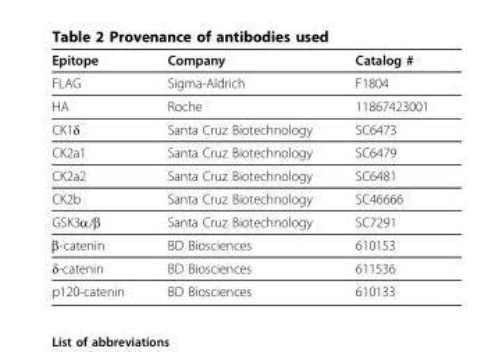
<table><thead><tr><td>Epitope</td><td>Company</td><td>Catalog #</td></tr></thead><tbody><tr><td>FLAG</td><td>Sigma-Aldrich</td><td>F1804</td></tr><tr><td>HA</td><td>Roche</td><td>11867423001</td></tr><tr><td>CK1δ</td><td>Santa Cruz Biotechnology</td><td>SC6473</td></tr><tr><td>CK2a1</td><td>Santa Cruz Biotechnology</td><td>SC6479</td></tr><tr><td>CK2a2</td><td>Santa Cruz Biotechnology</td><td>SC6481</td></tr><tr><td>CK2b</td><td>Santa Cruz Biotechnology</td><td>SC46666</td></tr><tr><td>GSK3α/β</td><td>Santa Cruz Biotechnology</td><td>SC7291</td></tr><tr><td>β-catenin</td><td>BD Biosciences</td><td>610153</td></tr><tr><td>δ-catenin</td><td>BD Biosciences</td><td>611536</td></tr><tr><td>p120-catenin</td><td>BD Biosciences</td><td>610133</td></tr></tbody></table>